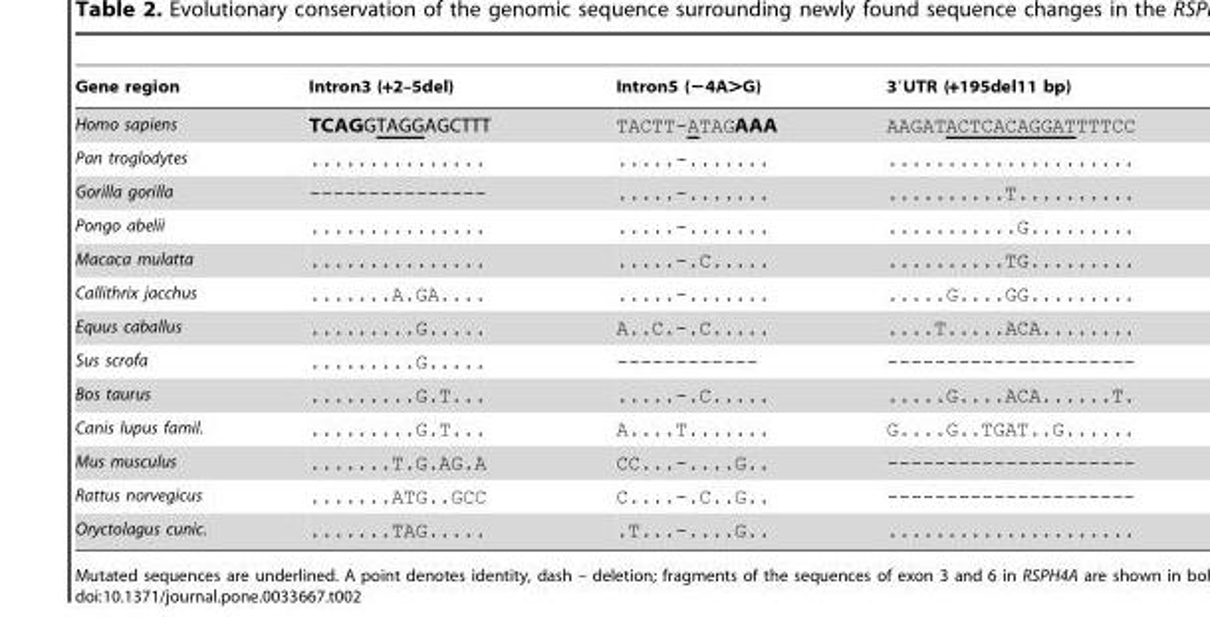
<table><thead><tr><td>Gene region</td><td>Intron3 (+2–5del)</td><td>Intron5 (−4A&gt;G)</td><td>3′UTR (+195del11 bp)</td></tr></thead><tbody><tr><td>Homo sapiens</td><td>TCAGGTAGGAGCTTT</td><td>TACTT-ATAGAAA</td><td>AAGATACTCACAGGATTTTCC</td></tr><tr><td>Pan troglodytes</td><td>...............</td><td>.....-.......</td><td>.....................</td></tr><tr><td>Gorilla gorilla</td><td>---------------</td><td>.....-.......</td><td>..........T..........</td></tr><tr><td>Pongo abelii</td><td>...............</td><td>.....-.......</td><td>...........G.........</td></tr><tr><td>Macaca mulatta</td><td>...............</td><td>.....-.C.....</td><td>..........TG.........</td></tr><tr><td>Callithrix jacchus</td><td>.......A.GA....</td><td>.....-.......</td><td>.....G....GG.........</td></tr><tr><td>Equus caballus</td><td>.........G.....</td><td>A..C.-.C.....</td><td>....T.....ACA........</td></tr><tr><td>Sus scrofa</td><td>.........G.....</td><td>------------</td><td>---------------------</td></tr><tr><td>Bos taurus</td><td>.........G.T...</td><td>.....-.C.....</td><td>.....G....ACA......T.</td></tr><tr><td>Canis lupus famil.</td><td>.........G.T...</td><td>A....T.......</td><td>G....G..TGAT..G......</td></tr><tr><td>Mus musculus</td><td>.......T.G.AG.A</td><td>CC...-....G..</td><td>---------------------</td></tr><tr><td>Rattus norvegicus</td><td>.......ATG..GCC</td><td>C....-.C..G..</td><td>---------------------</td></tr><tr><td>Oryctolagus cunic.</td><td>.......TAG.....</td><td>.T...-....G..</td><td>.....................</td></tr></tbody></table>